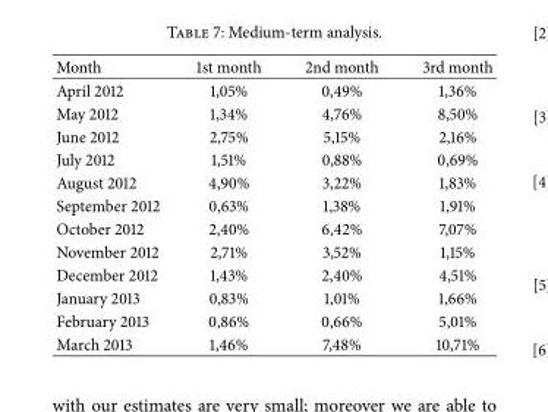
<table><thead><tr><td>Month</td><td>1st month</td><td>2nd month</td><td>3rd month</td></tr></thead><tbody><tr><td>April 2012</td><td>1,05%</td><td>0,49%</td><td>1,36%</td></tr><tr><td>May 2012</td><td>1,34%</td><td>4,76%</td><td>8,50%</td></tr><tr><td>June 2012</td><td>2,75%</td><td>5,15%</td><td>2,16%</td></tr><tr><td>July 2012</td><td>1,51%</td><td>0,88%</td><td>0,69%</td></tr><tr><td>August 2012</td><td>4,90%</td><td>3,22%</td><td>1,83%</td></tr><tr><td>September 2012</td><td>0,63%</td><td>1,38%</td><td>1,91%</td></tr><tr><td>October 2012</td><td>2,40%</td><td>6,42%</td><td>7,07%</td></tr><tr><td>November 2012</td><td>2,71%</td><td>3,52%</td><td>1,15%</td></tr><tr><td>December 2012</td><td>1,43%</td><td>2,40%</td><td>4,51%</td></tr><tr><td>January 2013</td><td>0,83%</td><td>1,01%</td><td>1,66%</td></tr><tr><td>February 2013</td><td>0,86%</td><td>0,66%</td><td>5,01%</td></tr><tr><td>March 2013</td><td>1,46%</td><td>7,48%</td><td>10,71%</td></tr></tbody></table>